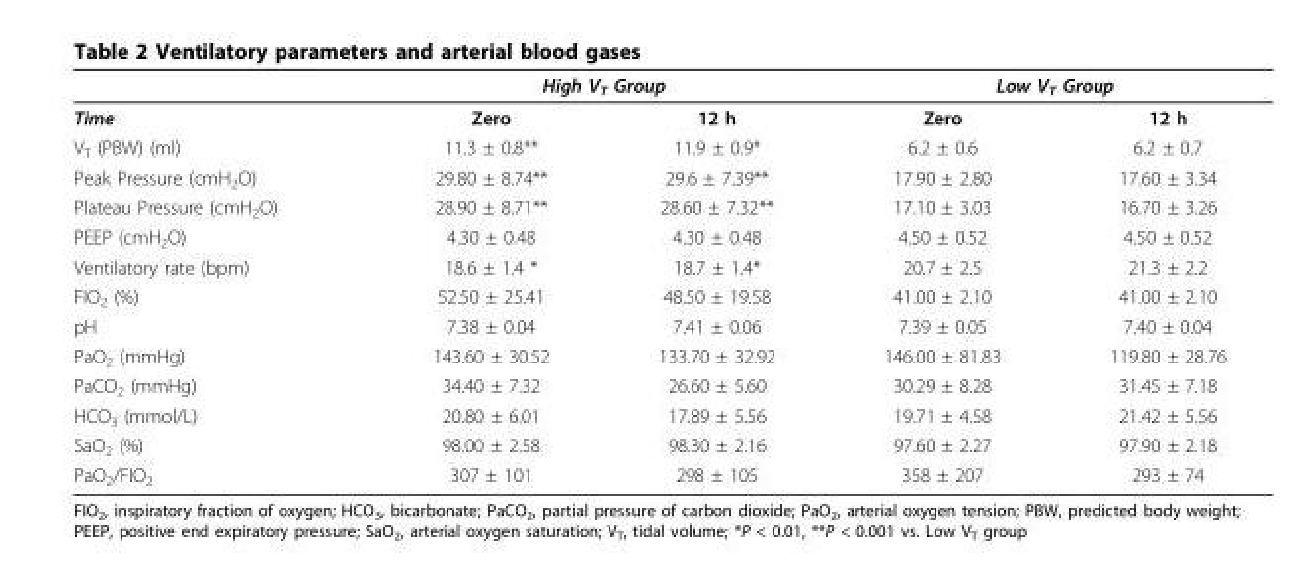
<table><thead><tr><td rowspan="2">Time</td><td colspan="2">High V<sub>T</sub> Group</td><td colspan="2">Low V<sub>T</sub> Group</td></tr><tr><td>Zero</td><td>12 h</td><td>Zero</td><td>12 h</td></tr></thead><tbody><tr><td>V<sub>T</sub> (PBW) (ml)</td><td>11.3 ± 0.8**</td><td>11.9 ± 0.9*</td><td>6.2 ± 0.6</td><td>6.2 ± 0.7</td></tr><tr><td>Peak Pressure (cmH<sub>2</sub>O)</td><td>29.80 ± 8.74**</td><td>29.6 ± 7.39**</td><td>17.90 ± 2.80</td><td>17.60 ± 3.34</td></tr><tr><td>Plateau Pressure (cmH<sub>2</sub>O)</td><td>28.90 ± 8.71**</td><td>28.60 ± 7.32**</td><td>17.10 ± 3.03</td><td>16.70 ± 3.26</td></tr><tr><td>PEEP (cmH<sub>2</sub>O)</td><td>4.30 ± 0.48</td><td>4.30 ± 0.48</td><td>4.50 ± 0.52</td><td>4.50 ± 0.52</td></tr><tr><td>Ventilatory rate (bpm)</td><td>18.6 ± 1.4 *</td><td>18.7 ± 1.4*</td><td>20.7 ± 2.5</td><td>21.3 ± 2.2</td></tr><tr><td>FIO<sub>2</sub> (%)</td><td>52.50 ± 25.41</td><td>48.50 ± 19.58</td><td>41.00 ± 2.10</td><td>41.00 ± 2.10</td></tr><tr><td>pH</td><td>7.38 ± 0.04</td><td>7.41 ± 0.06</td><td>7.39 ± 0.05</td><td>7.40 ± 0.04</td></tr><tr><td>PaO<sub>2</sub> (mmHg)</td><td>143.60 ± 30.52</td><td>133.70 ± 32.92</td><td>146.00 ± 81.83</td><td>119.80 ± 28.76</td></tr><tr><td>PaCO<sub>2</sub> (mmHg)</td><td>34.40 ± 7.32</td><td>26.60 ± 5.60</td><td>30.29 ± 8.28</td><td>31.45 ± 7.18</td></tr><tr><td>HCO<sub>3</sub> (mmol/L)</td><td>20.80 ± 6.01</td><td>17.89 ± 5.56</td><td>19.71 ± 4.58</td><td>21.42 ± 5.56</td></tr><tr><td>SaO<sub>2</sub> (%)</td><td>98.00 ± 2.58</td><td>98.30 ± 2.16</td><td>97.60 ± 2.27</td><td>97.90 ± 2.18</td></tr><tr><td>PaO<sub>2</sub>/FIO<sub>2</sub></td><td>307 ± 101</td><td>298 ± 105</td><td>358 ± 207</td><td>293 ± 74</td></tr></tbody></table>